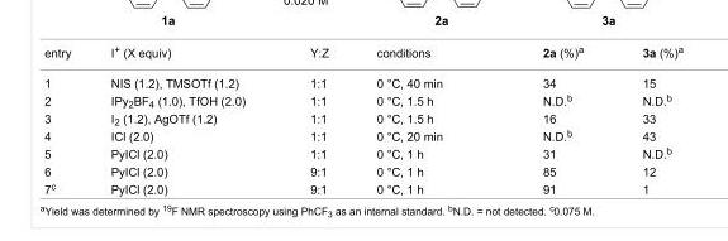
<table><tbody><tr><td>entry</td><td>I<sup>+</sup> (X equiv)</td><td>Y:Z</td><td>conditions</td><td>2a (%)<sup>a</sup></td><td>3a (%)<sup>a</sup></td></tr><tr><td>1</td><td>NIS (1.2), TMSOTf (1.2)</td><td>1:1</td><td>0 °C, 40 min</td><td>34</td><td>15</td></tr><tr><td>2</td><td>IPy<sub>2</sub>BF<sub>4</sub> (1.0), TfOH (2.0)</td><td>1:1</td><td>0 °C, 1.5 h</td><td>N.D.<sup>b</sup></td><td>N.D.<sup>b</sup></td></tr><tr><td>3</td><td>I<sub>2</sub> (1.2), AgOTf (1.2)</td><td>1:1</td><td>0 °C, 1.5 h</td><td>16</td><td>33</td></tr><tr><td>4</td><td>ICl (2.0)</td><td>1:1</td><td>0 °C, 20 min</td><td>N.D.<sup>b</sup></td><td>43</td></tr><tr><td>5</td><td>PyICl (2.0)</td><td>1:1</td><td>0 °C, 1 h</td><td>31</td><td>N.D.<sup>b</sup></td></tr><tr><td>6</td><td>PyICl (2.0)</td><td>9:1</td><td>0 °C, 1 h</td><td>85</td><td>12</td></tr><tr><td>7<sup>c</sup></td><td>PyICl (2.0)</td><td>9:1</td><td>0 °C, 1 h</td><td>91</td><td>1</td></tr></tbody></table>